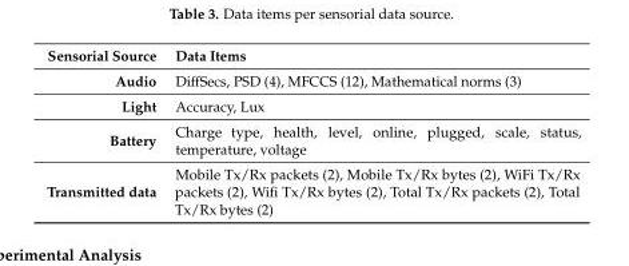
<table><thead><tr><td>Sensorial Source</td><td>Data Items</td></tr></thead><tbody><tr><td>Audio</td><td>DiffSecs, PSD (4), MFCCS (12), Mathematical norms (3)</td></tr><tr><td>Light</td><td>Accuracy, Lux</td></tr><tr><td>Battery</td><td>Charge type, health, level, online, plugged, scale, status, temperature, voltage</td></tr><tr><td>Transmitted data</td><td>Mobile Tx/Rx packets (2), Mobile Tx/Rx bytes (2), WiFi Tx/Rx packets (2), Wifi Tx/Rx bytes (2), Total Tx/Rx packets (2), Total Tx/Rx bytes (2)</td></tr></tbody></table>